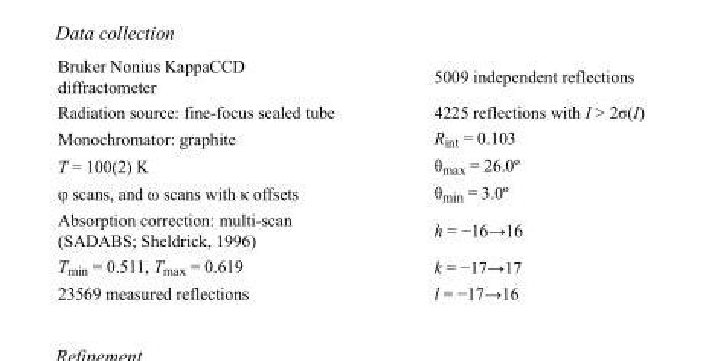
<table><tbody><tr><td>Bruker Nonius KappaCCD diffractometer</td><td>5009 independent reflections</td></tr><tr><td>Radiation source: fine-focus sealed tube</td><td>4225 reflections with I &gt; 2σ(I)</td></tr><tr><td>Monochromator: graphite</td><td>R<sub>int</sub> = 0.103</td></tr><tr><td>T = 100(2) K</td><td>θ<sub>max</sub> = 26.0º</td></tr><tr><td>φ scans, and ω scans with κ offsets</td><td>θ<sub>min</sub> = 3.0º</td></tr><tr><td>Absorption correction: multi-scan (SADABS; Sheldrick, 1996)</td><td>h = −16→16</td></tr><tr><td>T<sub>min</sub> = 0.511, T<sub>max</sub> = 0.619</td><td>k = −17→17</td></tr><tr><td>23569 measured reflections</td><td>l = −17→16</td></tr></tbody></table>